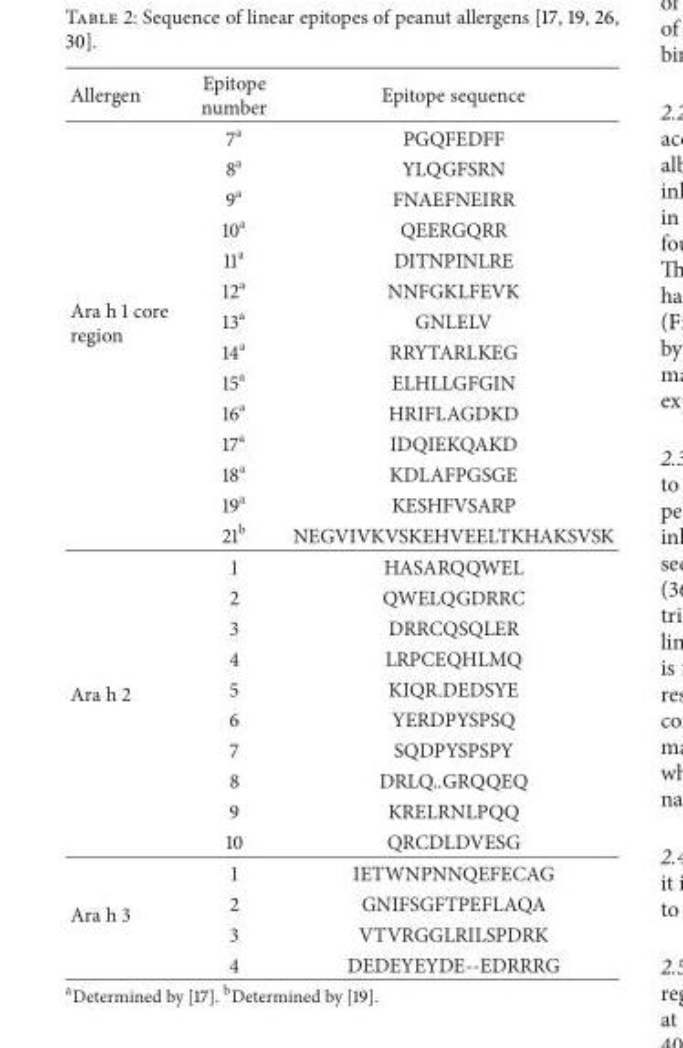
<table><thead><tr><td>Allergen</td><td>Epitope number</td><td>Epitope sequence</td></tr></thead><tbody><tr><td rowspan="14">Ara h 1 core region</td><td>7<sup>a</sup></td><td>PGQFEDFF</td></tr><tr><td>8<sup>a</sup></td><td>YLQGFSRN</td></tr><tr><td>9<sup>a</sup></td><td>FNAEFNEIRR</td></tr><tr><td>10<sup>a</sup></td><td>QEERGQRR</td></tr><tr><td>11<sup>a</sup></td><td>DITNPINLRE</td></tr><tr><td>12<sup>a</sup></td><td>NNFGKLFEVK</td></tr><tr><td>13<sup>a</sup></td><td>GNLELV</td></tr><tr><td>14<sup>a</sup></td><td>RRYTARLKEG</td></tr><tr><td>15<sup>a</sup></td><td>ELHLLGFGIN</td></tr><tr><td>16<sup>a</sup></td><td>HRIFLAGDKD</td></tr><tr><td>17<sup>a</sup></td><td>IDQIEKQAKD</td></tr><tr><td>18<sup>a</sup></td><td>KDLAFPGSGE</td></tr><tr><td>19<sup>a</sup></td><td>KESHFVSARP</td></tr><tr><td>21<sup>b</sup></td><td>NEGVIVKVSKEHVEELTKHAKSVSK</td></tr><tr><td rowspan="10">Ara h 2</td><td>1</td><td>HASARQQWEL</td></tr><tr><td>2</td><td>QWELQGDRRC</td></tr><tr><td>3</td><td>DRRCQSQLER</td></tr><tr><td>4</td><td>LRPCEQHLMQ</td></tr><tr><td>5</td><td>KIQR.DEDSYE</td></tr><tr><td>6</td><td>YERDPYSPSQ</td></tr><tr><td>7</td><td>SQDPYSPSPY</td></tr><tr><td>8</td><td>DRLQ..GRQQEQ</td></tr><tr><td>9</td><td>KRELRNLPQQ</td></tr><tr><td>10</td><td>QRCDLDVESG</td></tr><tr><td rowspan="4">Ara h 3</td><td>1</td><td>IETWNPNNQEFECAG</td></tr><tr><td>2</td><td>GNIFSGFTPEFLAQA</td></tr><tr><td>3</td><td>VTVRGGLRILSPDRK</td></tr><tr><td>4</td><td>DEDEYEYDE--EDRRRG</td></tr></tbody></table>